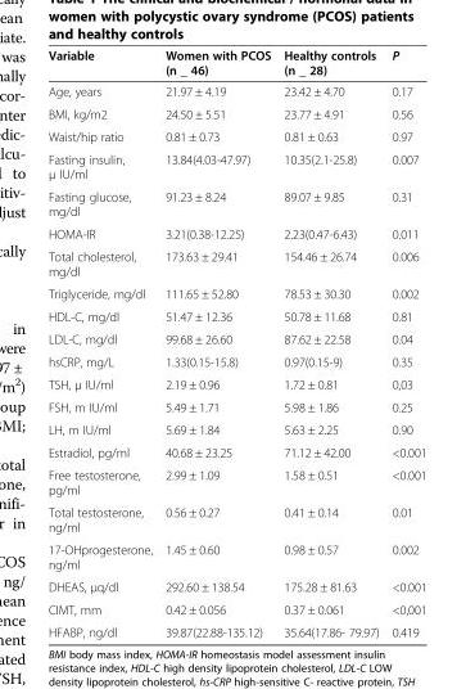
<table><thead><tr><td>Variable</td><td>Women with PCOS (n _ 46)</td><td>Healthy controls (n _ 28)</td><td>P</td></tr></thead><tbody><tr><td>Age, years</td><td>21.97 ± 4.19</td><td>23.42 ± 4.70</td><td>0.17</td></tr><tr><td>BMI, kg/m2</td><td>24.50 ± 5.51</td><td>23.77 ± 4.91</td><td>0.56</td></tr><tr><td>Waist/hip ratio</td><td>0.81 ± 0.73</td><td>0.81 ± 0.63</td><td>0.97</td></tr><tr><td>Fasting insulin, μ IU/ml</td><td>13.84(4.03-47.97)</td><td>10.35(2.1-25.8)</td><td>0.007</td></tr><tr><td>Fasting glucose, mg/dl</td><td>91.23 ± 8.24</td><td>89.07 ± 9.85</td><td>0.31</td></tr><tr><td>HOMA-IR</td><td>3.21(0.38-12.25)</td><td>2.23(0.47-6.43)</td><td>0.011</td></tr><tr><td>Total cholesterol, mg/dl</td><td>173.63 ± 29.41</td><td>154.46 ± 26.74</td><td>0.006</td></tr><tr><td>Triglyceride, mg/dl</td><td>111.65 ± 52.80</td><td>78.53 ± 30.30</td><td>0.002</td></tr><tr><td>HDL-C, mg/dl</td><td>51.47 ± 12.36</td><td>50.78 ± 11.68</td><td>0.81</td></tr><tr><td>LDL-C, mg/dl</td><td>99.68 ± 26.60</td><td>87.62 ± 22.58</td><td>0.04</td></tr><tr><td>hsCRP, mg/L</td><td>1.33(0.15-15.8)</td><td>0.97(0.15-9)</td><td>0.35</td></tr><tr><td>TSH, μ IU/ml</td><td>2.19 ± 0.96</td><td>1.72 ± 0.81</td><td>0,03</td></tr><tr><td>FSH, m IU/ml</td><td>5.49 ± 1.71</td><td>5.98 ± 1.86</td><td>0.25</td></tr><tr><td>LH, m IU/ml</td><td>5.69 ± 1.84</td><td>5.63 ± 2.25</td><td>0.90</td></tr><tr><td>Estradiol, pg/ml</td><td>40.68 ± 23.25</td><td>71.12 ± 42.00</td><td>&lt;0.001</td></tr><tr><td>Free testosterone, pg/ml</td><td>2.99 ± 1.09</td><td>1.58 ± 0.51</td><td>&lt;0.001</td></tr><tr><td>Total testosterone, ng/ml</td><td>0.56 ± 0.27</td><td>0.41 ± 0.14</td><td>0.01</td></tr><tr><td>17-OHprogesterone, ng/ml</td><td>1.45 ± 0.60</td><td>0.98 ± 0.57</td><td>0.002</td></tr><tr><td>DHEAS, μq/dl</td><td>292.60 ± 138.54</td><td>175.28 ± 81.63</td><td>&lt;0.001</td></tr><tr><td>CIMT, mm</td><td>0.42 ± 0.056</td><td>0.37 ± 0.061</td><td>&lt;0,001</td></tr><tr><td>HFABP, ng/dl</td><td>39.87(22.88-135.12)</td><td>35.64(17.86- 79.97)</td><td>0.419</td></tr></tbody></table>